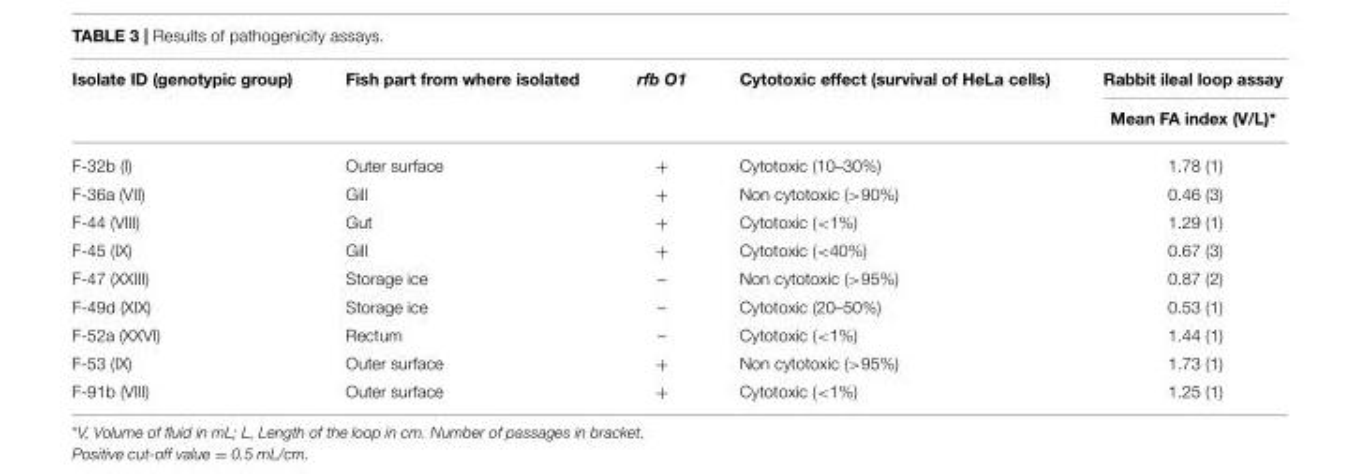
<table><thead><tr><td rowspan="2">Isolate ID (genotypic group)</td><td rowspan="2">Fish part from where isolated</td><td rowspan="2">rfb O1</td><td rowspan="2">Cytotoxic effect (survival of HeLa cells)</td><td rowspan="2">Rabbit ileal loop assay Mean FA index (V/L)*</td></tr><tr></tr></thead><tbody><tr><td>F-32b (I)</td><td>Outer surface</td><td>+</td><td>Cytotoxic (10–30%)</td><td>1.78 (1)</td></tr><tr><td>F-36a (VII)</td><td>Gill</td><td>+</td><td>Non cytotoxic (&gt;90%)</td><td>0.46 (3)</td></tr><tr><td>F-44 (VIII)</td><td>Gut</td><td>+</td><td>Cytotoxic (&lt;1%)</td><td>1.29 (1)</td></tr><tr><td>F-45 (IX)</td><td>Gill</td><td>+</td><td>Cytotoxic (&lt;40%)</td><td>0.67 (3)</td></tr><tr><td>F-47 (XXIII)</td><td>Storage ice</td><td>–</td><td>Non cytotoxic (&gt;95%)</td><td>0.87 (2)</td></tr><tr><td>F-49d (XIX)</td><td>Storage ice</td><td>–</td><td>Cytotoxic (20–50%)</td><td>0.53 (1)</td></tr><tr><td>F-52a (XXVI)</td><td>Rectum</td><td>–</td><td>Cytotoxic (&lt;1%)</td><td>1.44 (1)</td></tr><tr><td>F-53 (IX)</td><td>Outer surface</td><td>+</td><td>Non cytotoxic (&gt;95%)</td><td>1.73 (1)</td></tr><tr><td>F-91b (VIII)</td><td>Outer surface</td><td>+</td><td>Cytotoxic (&lt;1%)</td><td>1.25 (1)</td></tr></tbody></table>